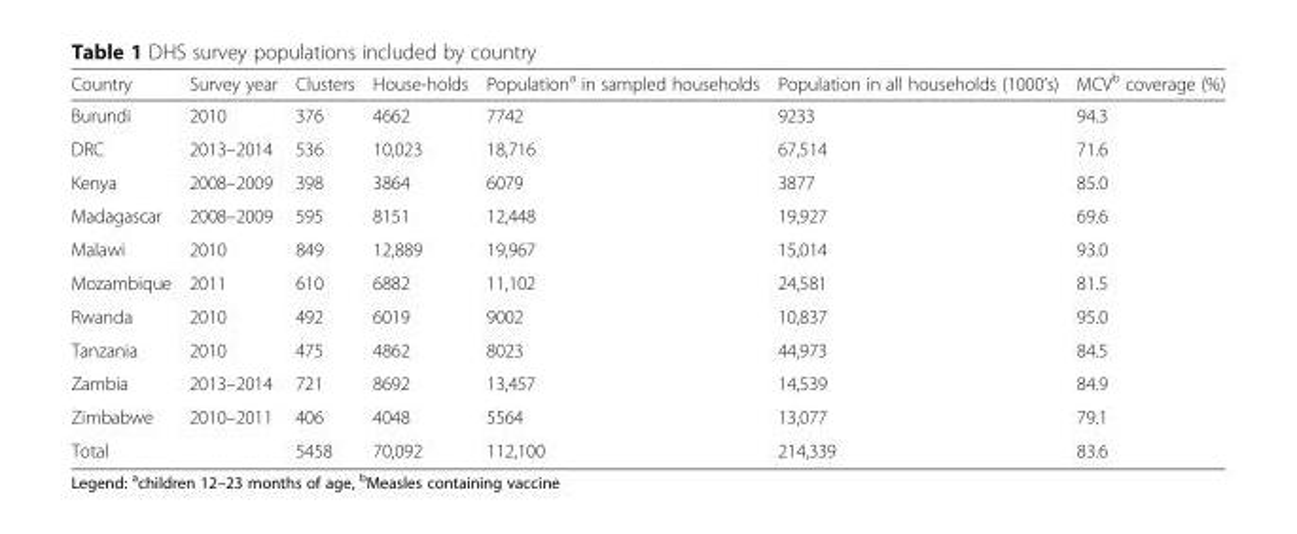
<table><thead><tr><td>Country</td><td>Survey year</td><td>Clusters</td><td>House-holds</td><td>Population<sup>a</sup> in sampled households</td><td>Population in all households (1000’s)</td><td>MCV<sup>b</sup> coverage (%)</td></tr></thead><tbody><tr><td>Burundi</td><td>2010</td><td>376</td><td>4662</td><td>7742</td><td>9233</td><td>94.3</td></tr><tr><td>DRC</td><td>2013–2014</td><td>536</td><td>10,023</td><td>18,716</td><td>67,514</td><td>71.6</td></tr><tr><td>Kenya</td><td>2008–2009</td><td>398</td><td>3864</td><td>6079</td><td>3877</td><td>85.0</td></tr><tr><td>Madagascar</td><td>2008–2009</td><td>595</td><td>8151</td><td>12,448</td><td>19,927</td><td>69.6</td></tr><tr><td>Malawi</td><td>2010</td><td>849</td><td>12,889</td><td>19,967</td><td>15,014</td><td>93.0</td></tr><tr><td>Mozambique</td><td>2011</td><td>610</td><td>6882</td><td>11,102</td><td>24,581</td><td>81.5</td></tr><tr><td>Rwanda</td><td>2010</td><td>492</td><td>6019</td><td>9002</td><td>10,837</td><td>95.0</td></tr><tr><td>Tanzania</td><td>2010</td><td>475</td><td>4862</td><td>8023</td><td>44,973</td><td>84.5</td></tr><tr><td>Zambia</td><td>2013–2014</td><td>721</td><td>8692</td><td>13,457</td><td>14,539</td><td>84.9</td></tr><tr><td>Zimbabwe</td><td>2010–2011</td><td>406</td><td>4048</td><td>5564</td><td>13,077</td><td>79.1</td></tr><tr><td>Total</td><td></td><td>5458</td><td>70,092</td><td>112,100</td><td>214,339</td><td>83.6</td></tr></tbody></table>